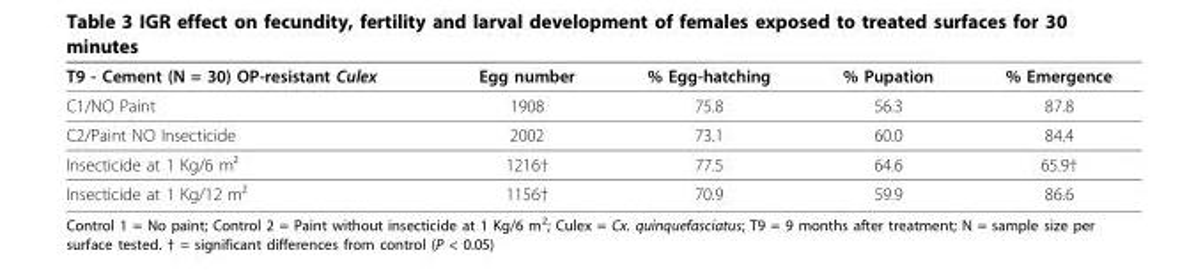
<table><thead><tr><td>T9 - Cement (N = 30) OP-resistant Culex</td><td>Egg number</td><td>% Egg-hatching</td><td>% Pupation</td><td>% Emergence</td></tr></thead><tbody><tr><td>C1/NO Paint</td><td>1908</td><td>75.8</td><td>56.3</td><td>87.8</td></tr><tr><td>C2/Paint NO Insecticide</td><td>2002</td><td>73.1</td><td>60.0</td><td>84.4</td></tr><tr><td>Insecticide at 1 Kg/6 m²</td><td>1216†</td><td>77.5</td><td>64.6</td><td>65.9†</td></tr><tr><td>Insecticide at 1 Kg/12 m²</td><td>1156†</td><td>70.9</td><td>59.9</td><td>86.6</td></tr></tbody></table>